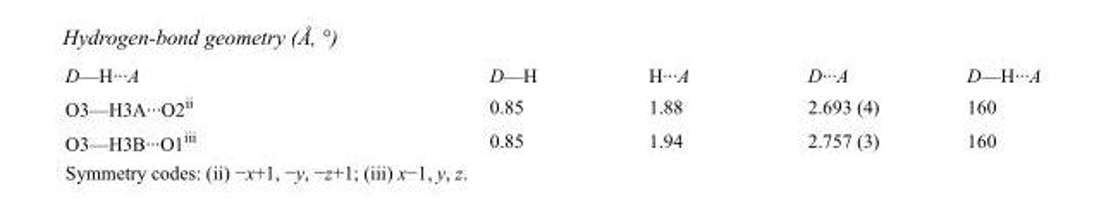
<table><tbody><tr><td>D—H···A</td><td>D—H</td><td>H···A</td><td>D···A</td><td>D—H···A</td></tr><tr><td>O3—H3A···O2<sup>ii</sup></td><td>0.85</td><td>1.88</td><td>2.693 (4)</td><td>160</td></tr><tr><td>O3—H3B···O1<sup>iii</sup></td><td>0.85</td><td>1.94</td><td>2.757 (3)</td><td>160</td></tr></tbody></table>